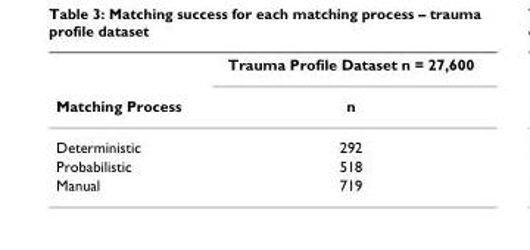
<table><thead><tr><td rowspan="2">Matching Process</td><td rowspan="2">Trauma Profile Dataset n = 27,600 n</td></tr><tr></tr></thead><tbody><tr><td>Deterministic</td><td>292</td></tr><tr><td>Probabilistic</td><td>518</td></tr><tr><td>Manual</td><td>719</td></tr></tbody></table>